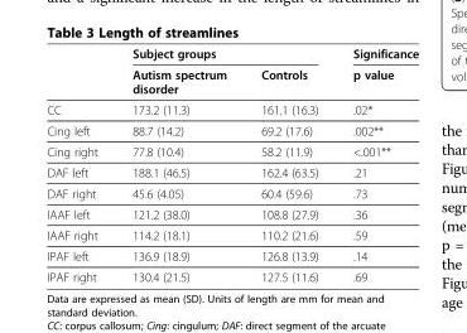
<table><thead><tr><td rowspan="2"></td><td colspan="2">Subject groups</td><td rowspan="2">Significance p value</td></tr><tr><td>Autism spectrum disorder</td><td>Controls</td></tr></thead><tbody><tr><td>CC</td><td>173.2 (11.3)</td><td>161.1 (16.3)</td><td>.02*</td></tr><tr><td>Cing left</td><td>88.7 (14.2)</td><td>69.2 (17.6)</td><td>.002**</td></tr><tr><td>Cing right</td><td>77.8 (10.4)</td><td>58.2 (11.9)</td><td>&lt;.001**</td></tr><tr><td>DAF left</td><td>188.1 (46.5)</td><td>162.4 (63.5)</td><td>.21</td></tr><tr><td>DAF right</td><td>45.6 (4.05)</td><td>60.4 (59.6)</td><td>.73</td></tr><tr><td>IAAF left</td><td>121.2 (38.0)</td><td>108.8 (27.9)</td><td>.36</td></tr><tr><td>IAAF right</td><td>114.2 (18.1)</td><td>110.2 (21.6)</td><td>.59</td></tr><tr><td>IPAF left</td><td>136.9 (18.9)</td><td>126.8 (13.9)</td><td>.14</td></tr><tr><td>IPAF right</td><td>130.4 (21.5)</td><td>127.5 (11.6)</td><td>.69</td></tr></tbody></table>